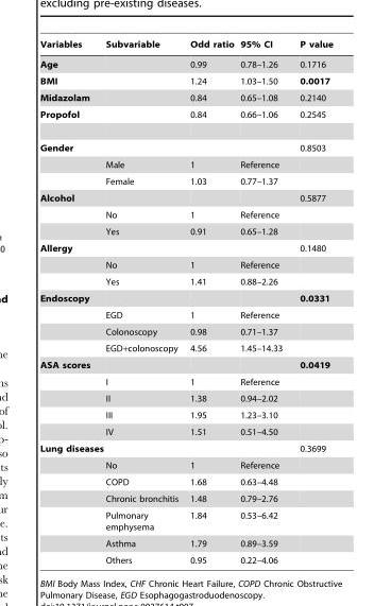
<table><thead><tr><td>Variables</td><td>Subvariable</td><td>Odd ratio</td><td>95% CI</td><td>P value</td></tr></thead><tbody><tr><td>Age</td><td></td><td>0.99</td><td>0.78–1.26</td><td>0.1716</td></tr><tr><td>BMI</td><td></td><td>1.24</td><td>1.03–1.50</td><td>0.0017</td></tr><tr><td>Midazolam</td><td></td><td>0.84</td><td>0.65–1.08</td><td>0.2140</td></tr><tr><td>Propofol</td><td></td><td>0.84</td><td>0.66–1.06</td><td>0.2545</td></tr><tr><td rowspan="3">Gender</td><td></td><td></td><td></td><td>0.8503</td></tr><tr><td>Male</td><td>1</td><td>Reference</td><td></td></tr><tr><td>Female</td><td>1.03</td><td>0.77–1.37</td><td></td></tr><tr><td rowspan="3">Alcohol</td><td></td><td></td><td></td><td>0.5877</td></tr><tr><td>No</td><td>1</td><td>Reference</td><td></td></tr><tr><td>Yes</td><td>0.91</td><td>0.65–1.28</td><td></td></tr><tr><td rowspan="3">Allergy</td><td></td><td></td><td></td><td>0.1480</td></tr><tr><td>No</td><td>1</td><td>Reference</td><td></td></tr><tr><td>Yes</td><td>1.41</td><td>0.88–2.26</td><td></td></tr><tr><td rowspan="4">Endoscopy</td><td></td><td></td><td></td><td>0.0331</td></tr><tr><td>EGD</td><td>1</td><td>Reference</td><td></td></tr><tr><td>Colonoscopy</td><td>0.98</td><td>0.71–1.37</td><td></td></tr><tr><td>EGD+colonoscopy</td><td>4.56</td><td>1.45–14.33</td><td></td></tr><tr><td rowspan="5">ASA scores</td><td></td><td></td><td></td><td>0.0419</td></tr><tr><td>I</td><td>1</td><td>Reference</td><td></td></tr><tr><td>II</td><td>1.38</td><td>0.94–2.02</td><td></td></tr><tr><td>III</td><td>1.95</td><td>1.23–3.10</td><td></td></tr><tr><td>IV</td><td>1.51</td><td>0.51–4.50</td><td></td></tr><tr><td rowspan="7">Lung diseases</td><td></td><td></td><td></td><td>0.3699</td></tr><tr><td>No</td><td>1</td><td>Reference</td><td></td></tr><tr><td>COPD</td><td>1.68</td><td>0.63–4.48</td><td></td></tr><tr><td>Chronic bronchitis</td><td>1.48</td><td>0.79–2.76</td><td></td></tr><tr><td>Pulmonary emphysema</td><td>1.84</td><td>0.53–6.42</td><td></td></tr><tr><td>Asthma</td><td>1.79</td><td>0.89–3.59</td><td></td></tr><tr><td>Others</td><td>0.95</td><td>0.22–4.06</td><td></td></tr></tbody></table>